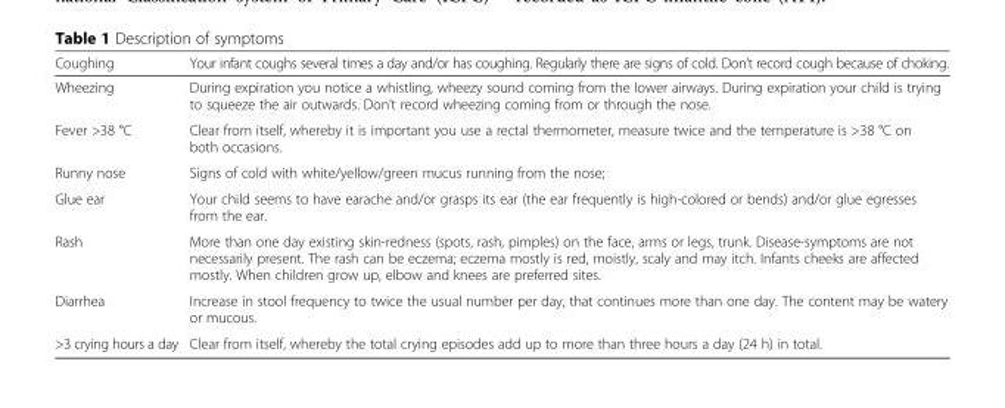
<table><thead><tr><td>Coughing</td><td>Your infant coughs several times a day and/or has coughing. Regularly there are signs of cold. Don’t record cough because of choking.</td></tr></thead><tbody><tr><td>Wheezing</td><td>During expiration you notice a whistling, wheezy sound coming from the lower airways. During expiration your child is trying to squeeze the air outwards. Don’t record wheezing coming from or through the nose.</td></tr><tr><td>Fever &gt;38 °C</td><td>Clear from itself, whereby it is important you use a rectal thermometer, measure twice and the temperature is &gt;38 °C on both occasions.</td></tr><tr><td>Runny nose</td><td>Signs of cold with white/yellow/green mucus running from the nose;</td></tr><tr><td>Glue ear</td><td>Your child seems to have earache and/or grasps its ear (the ear frequently is high-colored or bends) and/or glue egresses from the ear.</td></tr><tr><td>Rash</td><td>More than one day existing skin-redness (spots, rash, pimples) on the face, arms or legs, trunk. Disease-symptoms are not necessarily present. The rash can be eczema; eczema mostly is red, moistly, scaly and may itch. Infants cheeks are affected mostly. When children grow up, elbow and knees are preferred sites.</td></tr><tr><td>Diarrhea</td><td>Increase in stool frequency to twice the usual number per day, that continues more than one day. The content may be watery or mucous.</td></tr><tr><td>&gt;3 crying hours a day</td><td>Clear from itself, whereby the total crying episodes add up to more than three hours a day (24 h) in total.</td></tr></tbody></table>